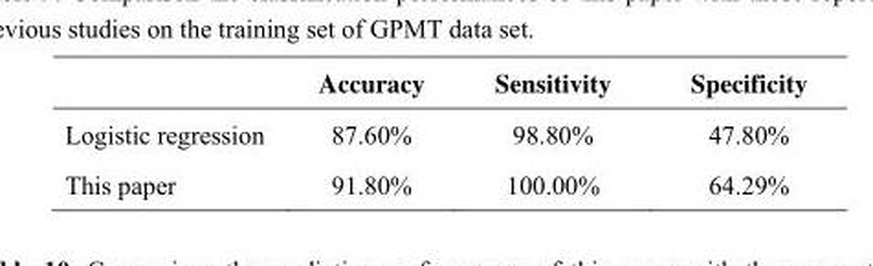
<table><thead><tr><td></td><td>Accuracy</td><td>Sensitivity</td><td>Specificity</td></tr></thead><tbody><tr><td>Logistic regression</td><td>87.60%</td><td>98.80%</td><td>47.80%</td></tr><tr><td>This paper</td><td>91.80%</td><td>100.00%</td><td>64.29%</td></tr></tbody></table>